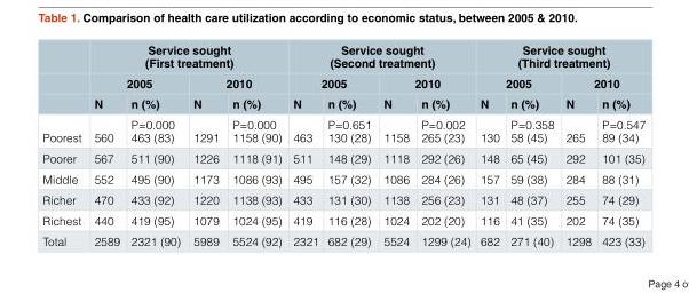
<table><thead><tr><td rowspan="3"></td><td colspan="4">Service sought (First treatment)</td><td colspan="4">Service sought (Second treatment)</td><td colspan="4">Service sought (Third treatment)</td></tr><tr><td colspan="2">2005</td><td colspan="2">2010</td><td colspan="2">2005</td><td colspan="2">2010</td><td colspan="2">2005</td><td colspan="2">2010</td></tr><tr><td>N</td><td>n (%)</td><td>N</td><td>n (%)</td><td>N</td><td>n (%)</td><td>N</td><td>n (%)</td><td>N</td><td>n (%)</td><td>N</td><td>n (%)</td></tr></thead><tbody><tr><td>Poorest</td><td>560</td><td>P=0.000 463 (83)</td><td>1291</td><td>P=0.000 1158 (90)</td><td>463</td><td>P=0.651 130 (28)</td><td>1158</td><td>P=0.002 265 (23)</td><td>130</td><td>P=0.358 58 (45)</td><td>265</td><td>P=0.547 89 (34)</td></tr><tr><td>Poorer</td><td>567</td><td>511 (90)</td><td>1226</td><td>1118 (91)</td><td>511</td><td>148 (29)</td><td>1118</td><td>292 (26)</td><td>148</td><td>65 (45)</td><td>292</td><td>101 (35)</td></tr><tr><td>Middle</td><td>552</td><td>495 (90)</td><td>1173</td><td>1086 (93)</td><td>495</td><td>157 (32)</td><td>1086</td><td>284 (26)</td><td>157</td><td>59 (38)</td><td>284</td><td>88 (31)</td></tr><tr><td>Richer</td><td>470</td><td>433 (92)</td><td>1220</td><td>1138 (93)</td><td>433</td><td>131 (30)</td><td>1138</td><td>256 (23)</td><td>131</td><td>48 (37)</td><td>255</td><td>74 (29)</td></tr><tr><td>Richest</td><td>440</td><td>419 (95)</td><td>1079</td><td>1024 (95)</td><td>419</td><td>116 (28)</td><td>1024</td><td>202 (20)</td><td>116</td><td>41 (35)</td><td>202</td><td>74 (35)</td></tr><tr><td>Total</td><td>2589</td><td>2321 (90)</td><td>5989</td><td>5524 (92)</td><td>2321</td><td>682 (29)</td><td>5524</td><td>1299 (24)</td><td>682</td><td>271 (40)</td><td>1298</td><td>423 (33)</td></tr></tbody></table>